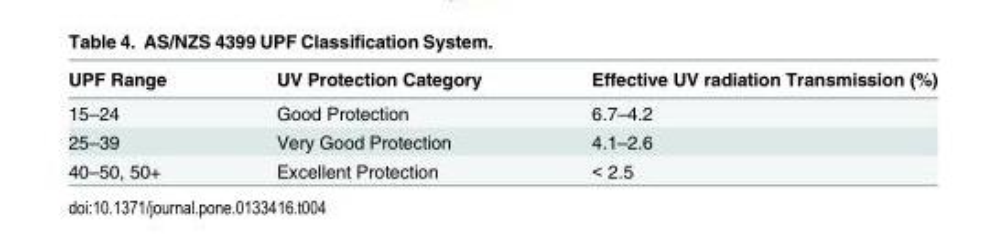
<table><thead><tr><td>UPF Range</td><td>UV Protection Category</td><td>Effective UV radiation Transmission (%)</td></tr></thead><tbody><tr><td>15–24</td><td>Good Protection</td><td>6.7–4.2</td></tr><tr><td>25–39</td><td>Very Good Protection</td><td>4.1–2.6</td></tr><tr><td>40–50, 50+</td><td>Excellent Protection</td><td>&lt; 2.5</td></tr></tbody></table>